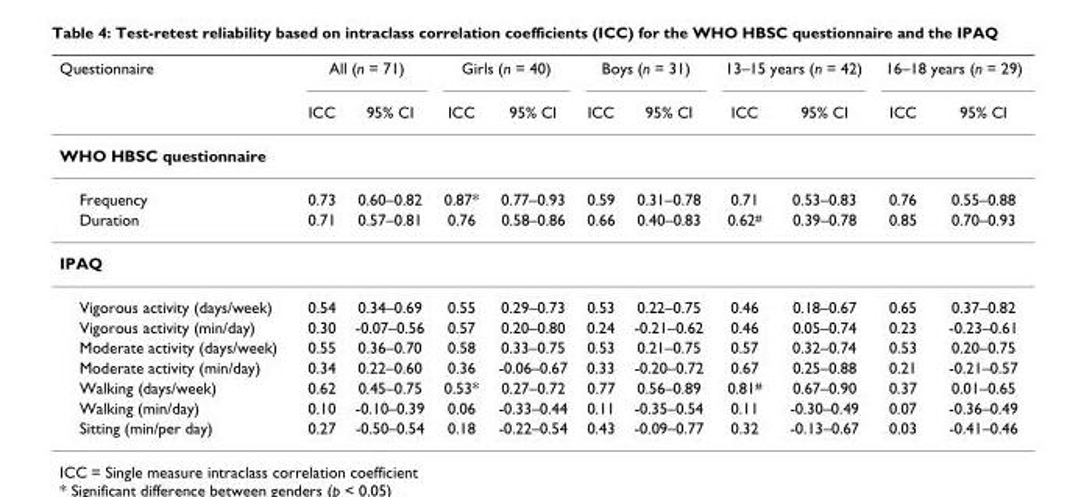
<table><thead><tr><td rowspan="2">Questionnaire</td><td colspan="2">All (n = 71)</td><td colspan="2">Girls (n = 40)</td><td colspan="2">Boys (n = 31)</td><td colspan="2">13–15 years (n = 42)</td><td colspan="2">16–18 years (n = 29)</td></tr><tr><td>ICC</td><td>95% CI</td><td>ICC</td><td>95% CI</td><td>ICC</td><td>95% CI</td><td>ICC</td><td>95% CI</td><td>ICC</td><td>95% CI</td></tr></thead><tbody><tr><td colspan="11">WHO HBSC questionnaire</td></tr><tr><td>Frequency</td><td>0.73</td><td>0.60–0.82</td><td>0.87*</td><td>0.77–0.93</td><td>0.59</td><td>0.31–0.78</td><td>0.71</td><td>0.53–0.83</td><td>0.76</td><td>0.55–0.88</td></tr><tr><td>Duration</td><td>0.71</td><td>0.57–0.81</td><td>0.76</td><td>0.58–0.86</td><td>0.66</td><td>0.40–0.83</td><td>0.62<sup>#</sup></td><td>0.39–0.78</td><td>0.85</td><td>0.70–0.93</td></tr><tr><td colspan="11">IPAQ</td></tr><tr><td>Vigorous activity (days/week)</td><td>0.54</td><td>0.34–0.69</td><td>0.55</td><td>0.29–0.73</td><td>0.53</td><td>0.22–0.75</td><td>0.46</td><td>0.18–0.67</td><td>0.65</td><td>0.37–0.82</td></tr><tr><td>Vigorous activity (min/day)</td><td>0.30</td><td>-0.07–0.56</td><td>0.57</td><td>0.20–0.80</td><td>0.24</td><td>-0.21–0.62</td><td>0.46</td><td>0.05–0.74</td><td>0.23</td><td>-0.23–0.61</td></tr><tr><td>Moderate activity (days/week)</td><td>0.55</td><td>0.36–0.70</td><td>0.58</td><td>0.33–0.75</td><td>0.53</td><td>0.21–0.75</td><td>0.57</td><td>0.32–0.74</td><td>0.53</td><td>0.20–0.75</td></tr><tr><td>Moderate activity (min/day)</td><td>0.34</td><td>0.22–0.60</td><td>0.36</td><td>-0.06–0.67</td><td>0.33</td><td>-0.20–0.72</td><td>0.67</td><td>0.25–0.88</td><td>0.21</td><td>-0.21–0.57</td></tr><tr><td>Walking (days/week)</td><td>0.62</td><td>0.45–0.75</td><td>0.53*</td><td>0.27–0.72</td><td>0.77</td><td>0.56–0.89</td><td>0.81<sup>#</sup></td><td>0.67–0.90</td><td>0.37</td><td>0.01–0.65</td></tr><tr><td>Walking (min/day)</td><td>0.10</td><td>-0.10–0.39</td><td>0.06</td><td>-0.33–0.44</td><td>0.11</td><td>-0.35–0.54</td><td>0.11</td><td>-0.30–0.49</td><td>0.07</td><td>-0.36–0.49</td></tr><tr><td>Sitting (min/per day)</td><td>0.27</td><td>-0.50–0.54</td><td>0.18</td><td>-0.22–0.54</td><td>0.43</td><td>-0.09–0.77</td><td>0.32</td><td>-0.13–0.67</td><td>0.03</td><td>-0.41–0.46</td></tr></tbody></table>